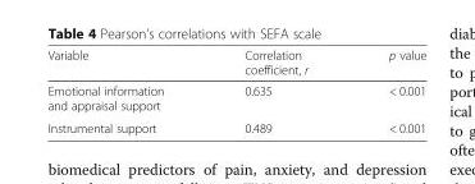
<table><thead><tr><td>Variable</td><td>Correlation coefficient, r</td><td>p value</td></tr></thead><tbody><tr><td>Emotional information and appraisal support</td><td>0.635</td><td>&lt; 0.001</td></tr><tr><td>Instrumental support</td><td>0.489</td><td>&lt; 0.001</td></tr></tbody></table>